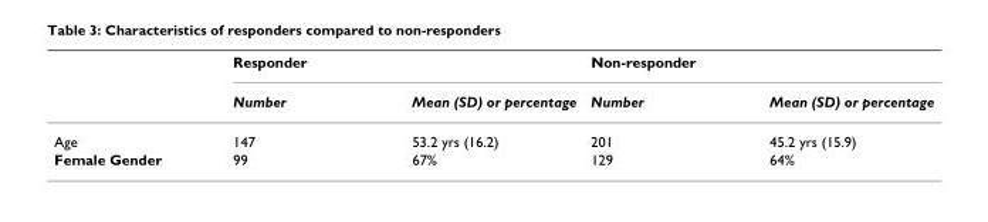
<table><thead><tr><td rowspan="2"></td><td colspan="2">Responder</td><td colspan="2">Non-responder</td></tr><tr><td>Number</td><td>Mean (SD) or percentage</td><td>Number</td><td>Mean (SD) or percentage</td></tr></thead><tbody><tr><td>Age</td><td>147</td><td>53.2 yrs (16.2)</td><td>201</td><td>45.2 yrs (15.9)</td></tr><tr><td>Female Gender</td><td>99</td><td>67%</td><td>129</td><td>64%</td></tr></tbody></table>